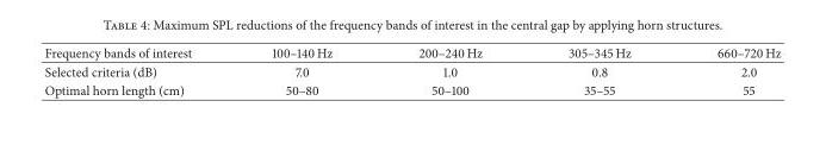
<table><thead><tr><td>Frequency bands of interest</td><td>100–140 Hz</td><td>200–240 Hz</td><td>305–345 Hz</td><td>660–720 Hz</td></tr></thead><tbody><tr><td>Selected criteria (dB)</td><td>7.0</td><td>1.0</td><td>0.8</td><td>2.0</td></tr><tr><td>Optimal horn length (cm)</td><td>50–80</td><td>50–100</td><td>35–55</td><td>55</td></tr></tbody></table>